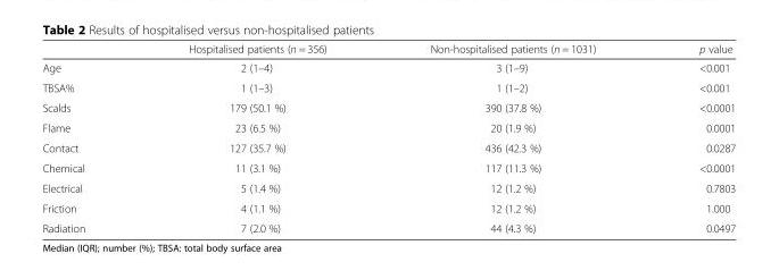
<table><thead><tr><td></td><td>Hospitalised patients (n = 356)</td><td>Non-hospitalised patients (n = 1031)</td><td>p value</td></tr></thead><tbody><tr><td>Age</td><td>2 (1–4)</td><td>3 (1–9)</td><td>&lt;0.001</td></tr><tr><td>TBSA%</td><td>1 (1–3)</td><td>1 (1–2)</td><td>&lt;0.001</td></tr><tr><td>Scalds</td><td>179 (50.1 %)</td><td>390 (37.8 %)</td><td>&lt;0.0001</td></tr><tr><td>Flame</td><td>23 (6.5 %)</td><td>20 (1.9 %)</td><td>0.0001</td></tr><tr><td>Contact</td><td>127 (35.7 %)</td><td>436 (42.3 %)</td><td>0.0287</td></tr><tr><td>Chemical</td><td>11 (3.1 %)</td><td>117 (11.3 %)</td><td>&lt;0.0001</td></tr><tr><td>Electrical</td><td>5 (1.4 %)</td><td>12 (1.2 %)</td><td>0.7803</td></tr><tr><td>Friction</td><td>4 (1.1 %)</td><td>12 (1.2 %)</td><td>1.000</td></tr><tr><td>Radiation</td><td>7 (2.0 %)</td><td>44 (4.3 %)</td><td>0.0497</td></tr></tbody></table>